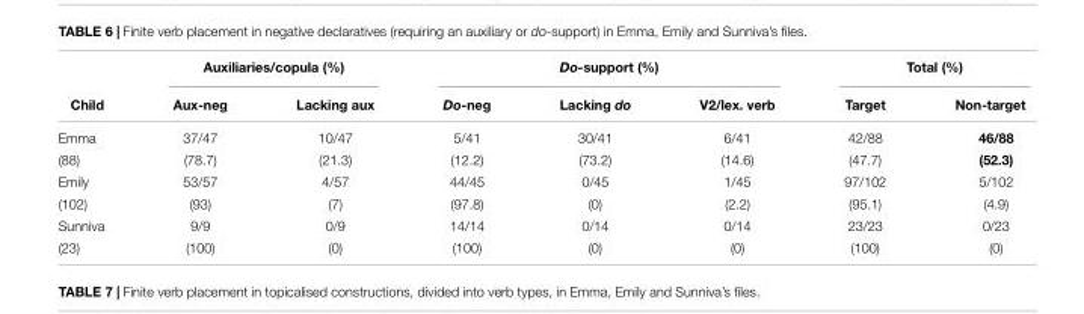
<table><thead><tr><td rowspan="2">Child</td><td colspan="2">Auxiliaries/copula (%)</td><td colspan="3">Do-support (%)</td><td colspan="2">Total (%)</td></tr><tr><td>Aux-neg</td><td>Lacking aux</td><td>Do-neg</td><td>Lacking do</td><td>V2/lex. verb</td><td>Target</td><td>Non-target</td></tr></thead><tbody><tr><td>Emma</td><td>37/47</td><td>10/47</td><td>5/41</td><td>30/41</td><td>6/41</td><td>42/88</td><td>46/88</td></tr><tr><td>(88)</td><td>(78.7)</td><td>(21.3)</td><td>(12.2)</td><td>(73.2)</td><td>(14.6)</td><td>(47.7)</td><td>(52.3)</td></tr><tr><td>Emily</td><td>53/57</td><td>4/57</td><td>44/45</td><td>0/45</td><td>1/45</td><td>97/102</td><td>5/102</td></tr><tr><td>(102)</td><td>(93)</td><td>(7)</td><td>(97.8)</td><td>(0)</td><td>(2.2)</td><td>(95.1)</td><td>(4.9)</td></tr><tr><td>Sunniva</td><td>9/9</td><td>0/9</td><td>14/14</td><td>0/14</td><td>0/14</td><td>23/23</td><td>0/23</td></tr><tr><td>(23)</td><td>(100)</td><td>(0)</td><td>(100)</td><td>(0)</td><td>(0)</td><td>(100)</td><td>(0)</td></tr></tbody></table>